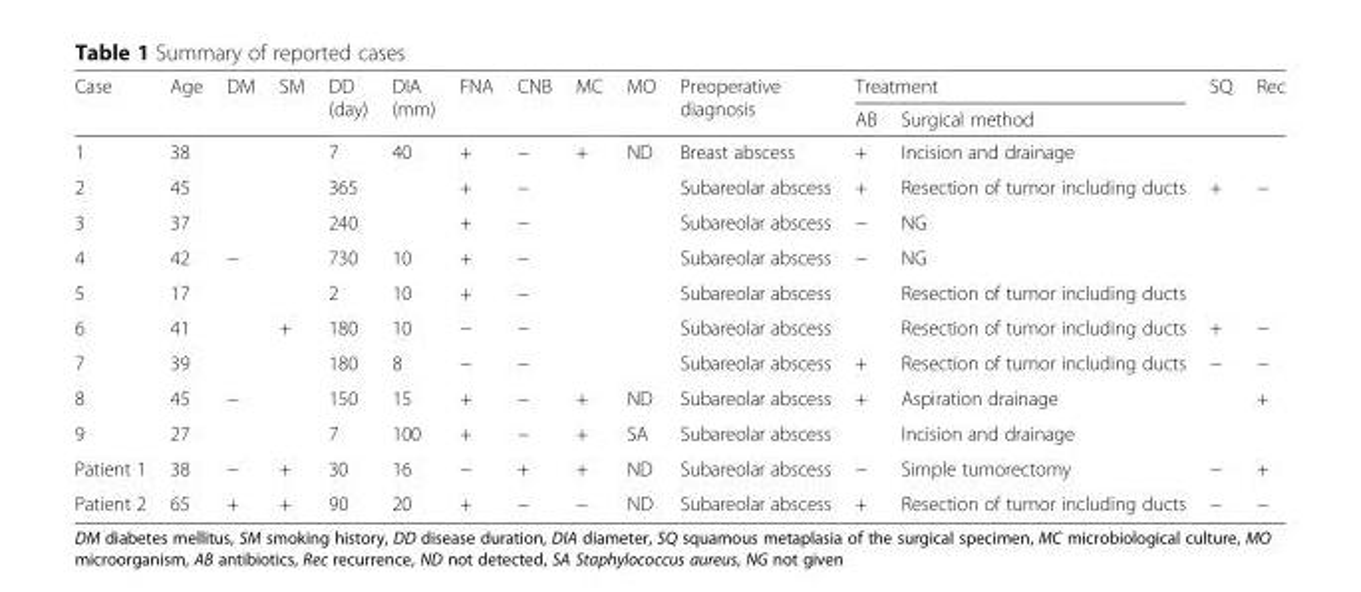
<table><thead><tr><td rowspan="2">Case</td><td rowspan="2">Age</td><td rowspan="2">DM</td><td rowspan="2">SM</td><td rowspan="2">DD (day)</td><td rowspan="2">DIA (mm)</td><td rowspan="2">FNA</td><td rowspan="2">CNB</td><td rowspan="2">MC</td><td rowspan="2">MO</td><td rowspan="2">Preoperative diagnosis</td><td colspan="2">Treatment</td><td rowspan="2">SQ</td><td rowspan="2">Rec</td></tr><tr><td>AB</td><td>Surgical method</td></tr></thead><tbody><tr><td>1</td><td>38</td><td></td><td></td><td>7</td><td>40</td><td>+</td><td>−</td><td>+</td><td>ND</td><td>Breast abscess</td><td>+</td><td>Incision and drainage</td><td></td><td></td></tr><tr><td>2</td><td>45</td><td></td><td></td><td>365</td><td></td><td>+</td><td>−</td><td></td><td></td><td>Subareolar abscess</td><td>+</td><td>Resection of tumor including ducts</td><td>+</td><td>−</td></tr><tr><td>3</td><td>37</td><td></td><td></td><td>240</td><td></td><td>+</td><td>−</td><td></td><td></td><td>Subareolar abscess</td><td>−</td><td>NG</td><td></td><td></td></tr><tr><td>4</td><td>42</td><td>−</td><td></td><td>730</td><td>10</td><td>+</td><td>−</td><td></td><td></td><td>Subareolar abscess</td><td>−</td><td>NG</td><td></td><td></td></tr><tr><td>5</td><td>17</td><td></td><td></td><td>2</td><td>10</td><td>+</td><td>−</td><td></td><td></td><td>Subareolar abscess</td><td></td><td>Resection of tumor including ducts</td><td></td><td></td></tr><tr><td>6</td><td>41</td><td></td><td>+</td><td>180</td><td>10</td><td>−</td><td>−</td><td></td><td></td><td>Subareolar abscess</td><td></td><td>Resection of tumor including ducts</td><td>+</td><td>−</td></tr><tr><td>7</td><td>39</td><td></td><td></td><td>180</td><td>8</td><td>−</td><td>−</td><td></td><td></td><td>Subareolar abscess</td><td>+</td><td>Resection of tumor including ducts</td><td>−</td><td>−</td></tr><tr><td>8</td><td>45</td><td>−</td><td></td><td>150</td><td>15</td><td>+</td><td>−</td><td>+</td><td>ND</td><td>Subareolar abscess</td><td>+</td><td>Aspiration drainage</td><td></td><td>+</td></tr><tr><td>9</td><td>27</td><td></td><td></td><td>7</td><td>100</td><td>+</td><td>−</td><td>+</td><td>SA</td><td>Subareolar abscess</td><td></td><td>Incision and drainage</td><td></td><td></td></tr><tr><td>Patient 1</td><td>38</td><td>−</td><td>+</td><td>30</td><td>16</td><td>−</td><td>+</td><td>+</td><td>ND</td><td>Subareolar abscess</td><td>−</td><td>Simple tumorectomy</td><td>−</td><td>+</td></tr><tr><td>Patient 2</td><td>65</td><td>+</td><td>+</td><td>90</td><td>20</td><td>+</td><td>−</td><td>−</td><td>ND</td><td>Subareolar abscess</td><td>+</td><td>Resection of tumor including ducts</td><td>−</td><td>−</td></tr></tbody></table>